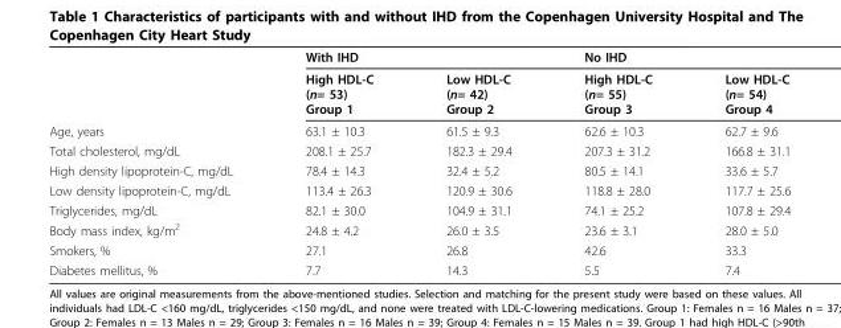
<table><thead><tr><td rowspan="2"></td><td colspan="2">With IHD</td><td colspan="2">No IHD</td></tr><tr><td>High HDL-C (n= 53) Group 1</td><td>Low HDL-C (n= 42) Group 2</td><td>High HDL-C (n= 55) Group 3</td><td>Low HDL-C (n= 54) Group 4</td></tr></thead><tbody><tr><td>Age, years</td><td>63.1 ± 10.3</td><td>61.5 ± 9.3</td><td>62.6 ± 10.3</td><td>62.7 ± 9.6</td></tr><tr><td>Total cholesterol, mg/dL</td><td>208.1 ± 25.7</td><td>182.3 ± 29.4</td><td>207.3 ± 31.2</td><td>166.8 ± 31.1</td></tr><tr><td>High density lipoprotein-C, mg/dL</td><td>78.4 ± 14.3</td><td>32.4 ± 5.2</td><td>80.5 ± 14.1</td><td>33.6 ± 5.7</td></tr><tr><td>Low density lipoprotein-C, mg/dL</td><td>113.4 ± 26.3</td><td>120.9 ± 30.6</td><td>118.8 ± 28.0</td><td>117.7 ± 25.6</td></tr><tr><td>Triglycerides, mg/dL</td><td>82.1 ± 30.0</td><td>104.9 ± 31.1</td><td>74.1 ± 25.2</td><td>107.8 ± 29.4</td></tr><tr><td>Body mass index, kg/m<sup>2</sup></td><td>24.8 ± 4.2</td><td>26.0 ± 3.5</td><td>23.6 ± 3.1</td><td>28.0 ± 5.0</td></tr><tr><td>Smokers, %</td><td>27.1</td><td>26.8</td><td>42.6</td><td>33.3</td></tr><tr><td>Diabetes mellitus, %</td><td>7.7</td><td>14.3</td><td>5.5</td><td>7.4</td></tr></tbody></table>